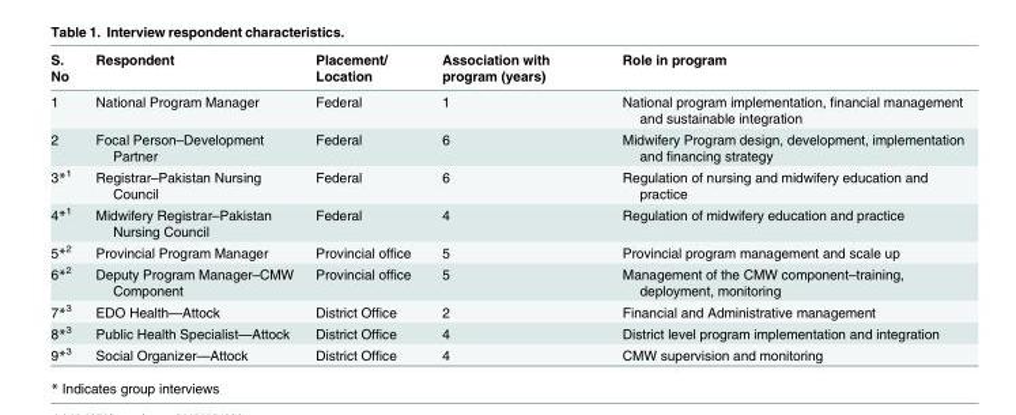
<table><thead><tr><td>S. No</td><td>Respondent</td><td>Placement/ Location</td><td>Association with program (years)</td><td>Role in program</td></tr></thead><tbody><tr><td>1</td><td>National Program Manager</td><td>Federal</td><td>1</td><td>National program implementation, financial management and sustainable integration</td></tr><tr><td>2</td><td>Focal Person–Development Partner</td><td>Federal</td><td>6</td><td>Midwifery Program design, development, implementation and financing strategy</td></tr><tr><td>3*<sup>1</sup></td><td>Registrar–Pakistan Nursing Council</td><td>Federal</td><td>6</td><td>Regulation of nursing and midwifery education and practice</td></tr><tr><td>4*<sup>1</sup></td><td>Midwifery Registrar–Pakistan Nursing Council</td><td>Federal</td><td>4</td><td>Regulation of midwifery education and practice</td></tr><tr><td>5*<sup>2</sup></td><td>Provincial Program Manager</td><td>Provincial office</td><td>5</td><td>Provincial program management and scale up</td></tr><tr><td>6*<sup>2</sup></td><td>Deputy Program Manager–CMW Component</td><td>Provincial office</td><td>5</td><td>Management of the CMW component–training, deployment, monitoring</td></tr><tr><td>7*<sup>3</sup></td><td>EDO Health—Attock</td><td>District Office</td><td>2</td><td>Financial and Administrative management</td></tr><tr><td>8*<sup>3</sup></td><td>Public Health Specialist—Attock</td><td>District Office</td><td>4</td><td>District level program implementation and integration</td></tr><tr><td>9*<sup>3</sup></td><td>Social Organizer—Attock</td><td>District Office</td><td>4</td><td>CMW supervision and monitoring</td></tr></tbody></table>